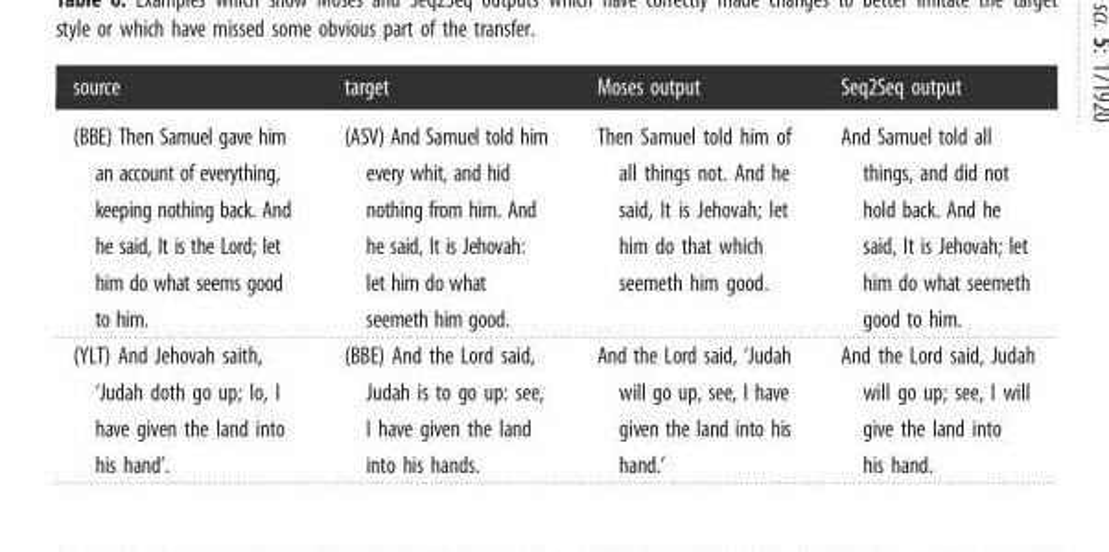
<table><thead><tr><td>source</td><td>target</td><td>Moses output</td><td>Seq2Seq output</td></tr></thead><tbody><tr><td>(BBE) Then Samuel gave him an account of everything, keeping nothing back. And he said, It is the Lord; let him do what seems good to him.</td><td>(ASV) And Samuel told him every whit, and hid nothing from him. And he said, It is Jehovah: let him do what seemeth him good.</td><td>Then Samuel told him of all things not. And he said, It is Jehovah; let him do that which seemeth him good.</td><td>And Samuel told all things, and did not hold back. And he said, It is Jehovah; let him do what seemeth good to him.</td></tr><tr><td>(YLT) And Jehovah saith, ‘Judah doth go up; lo, I have given the land into his hand’.</td><td>(BBE) And the Lord said, Judah is to go up: see, I have given the land into his hands.</td><td>And the Lord said, ‘Judah will go up, see, I have given the land into his hand.’</td><td>And the Lord said, Judah will go up; see, I will give the land into his hand.</td></tr></tbody></table>